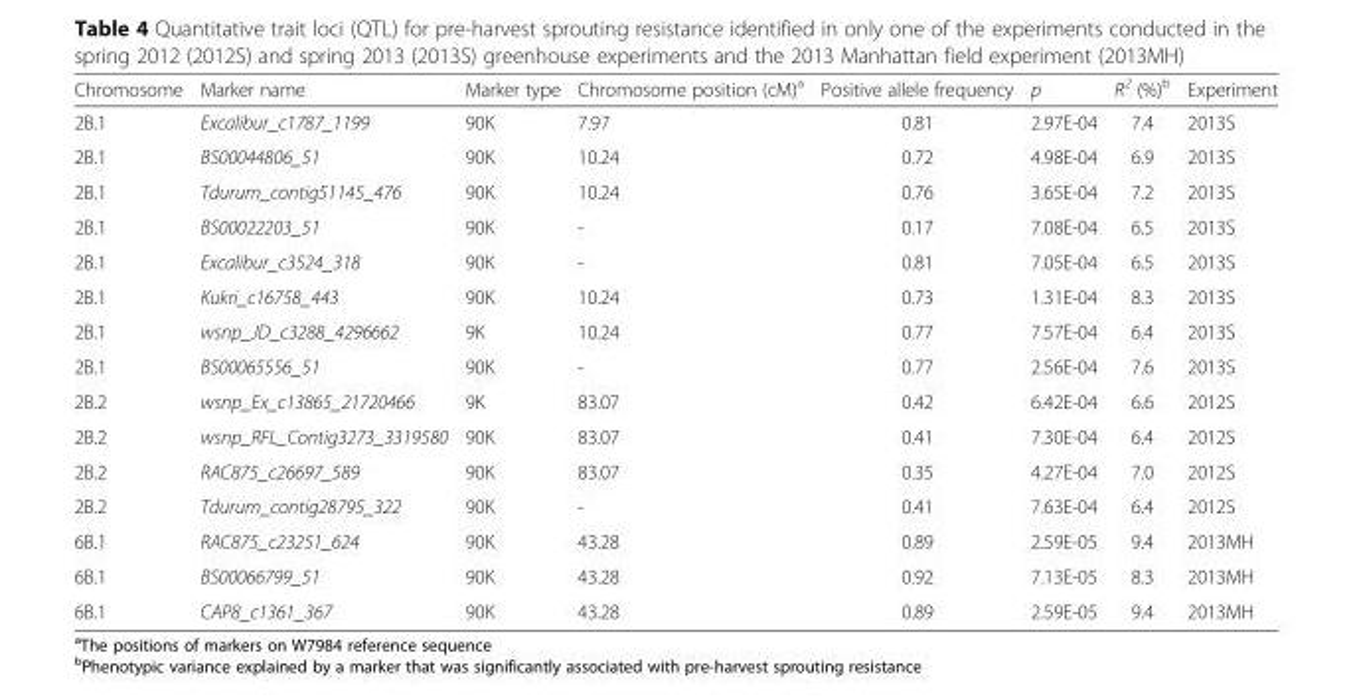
<table><thead><tr><td>Chromosome</td><td>Marker name</td><td>Marker type</td><td>Chromosome position (cM)<sup>a</sup></td><td>Positive allele frequency</td><td>p</td><td>R<sup>2</sup> (%)<sup>b</sup></td><td>Experiment</td></tr></thead><tbody><tr><td>2B.1</td><td>Excalibur_c1787_1199</td><td>90K</td><td>7.97</td><td>0.81</td><td>2.97E-04</td><td>7.4</td><td>2013S</td></tr><tr><td>2B.1</td><td>BS00044806_51</td><td>90K</td><td>10.24</td><td>0.72</td><td>4.98E-04</td><td>6.9</td><td>2013S</td></tr><tr><td>2B.1</td><td>Tdurum_contig51145_476</td><td>90K</td><td>10.24</td><td>0.76</td><td>3.65E-04</td><td>7.2</td><td>2013S</td></tr><tr><td>2B.1</td><td>BS00022203_51</td><td>90K</td><td>-</td><td>0.17</td><td>7.08E-04</td><td>6.5</td><td>2013S</td></tr><tr><td>2B.1</td><td>Excalibur_c3524_318</td><td>90K</td><td>-</td><td>0.81</td><td>7.05E-04</td><td>6.5</td><td>2013S</td></tr><tr><td>2B.1</td><td>Kukri_c16758_443</td><td>90K</td><td>10.24</td><td>0.73</td><td>1.31E-04</td><td>8.3</td><td>2013S</td></tr><tr><td>2B.1</td><td>wsnp_JD_c3288_4296662</td><td>9K</td><td>10.24</td><td>0.77</td><td>7.57E-04</td><td>6.4</td><td>2013S</td></tr><tr><td>2B.1</td><td>BS00065556_51</td><td>90K</td><td>-</td><td>0.77</td><td>2.56E-04</td><td>7.6</td><td>2013S</td></tr><tr><td>2B.2</td><td>wsnp_Ex_c13865_21720466</td><td>9K</td><td>83.07</td><td>0.42</td><td>6.42E-04</td><td>6.6</td><td>2012S</td></tr><tr><td>2B.2</td><td>wsnp_RFL_Contig3273_3319580</td><td>90K</td><td>83.07</td><td>0.41</td><td>7.30E-04</td><td>6.4</td><td>2012S</td></tr><tr><td>2B.2</td><td>RAC875_c26697_589</td><td>90K</td><td>83.07</td><td>0.35</td><td>4.27E-04</td><td>7.0</td><td>2012S</td></tr><tr><td>2B.2</td><td>Tdurum_contig28795_322</td><td>90K</td><td>-</td><td>0.41</td><td>7.63E-04</td><td>6.4</td><td>2012S</td></tr><tr><td>6B.1</td><td>RAC875_c23251_624</td><td>90K</td><td>43.28</td><td>0.89</td><td>2.59E-05</td><td>9.4</td><td>2013MH</td></tr><tr><td>6B.1</td><td>BS00066799_51</td><td>90K</td><td>43.28</td><td>0.92</td><td>7.13E-05</td><td>8.3</td><td>2013MH</td></tr><tr><td>6B.1</td><td>CAP8_c1361_367</td><td>90K</td><td>43.28</td><td>0.89</td><td>2.59E-05</td><td>9.4</td><td>2013MH</td></tr></tbody></table>